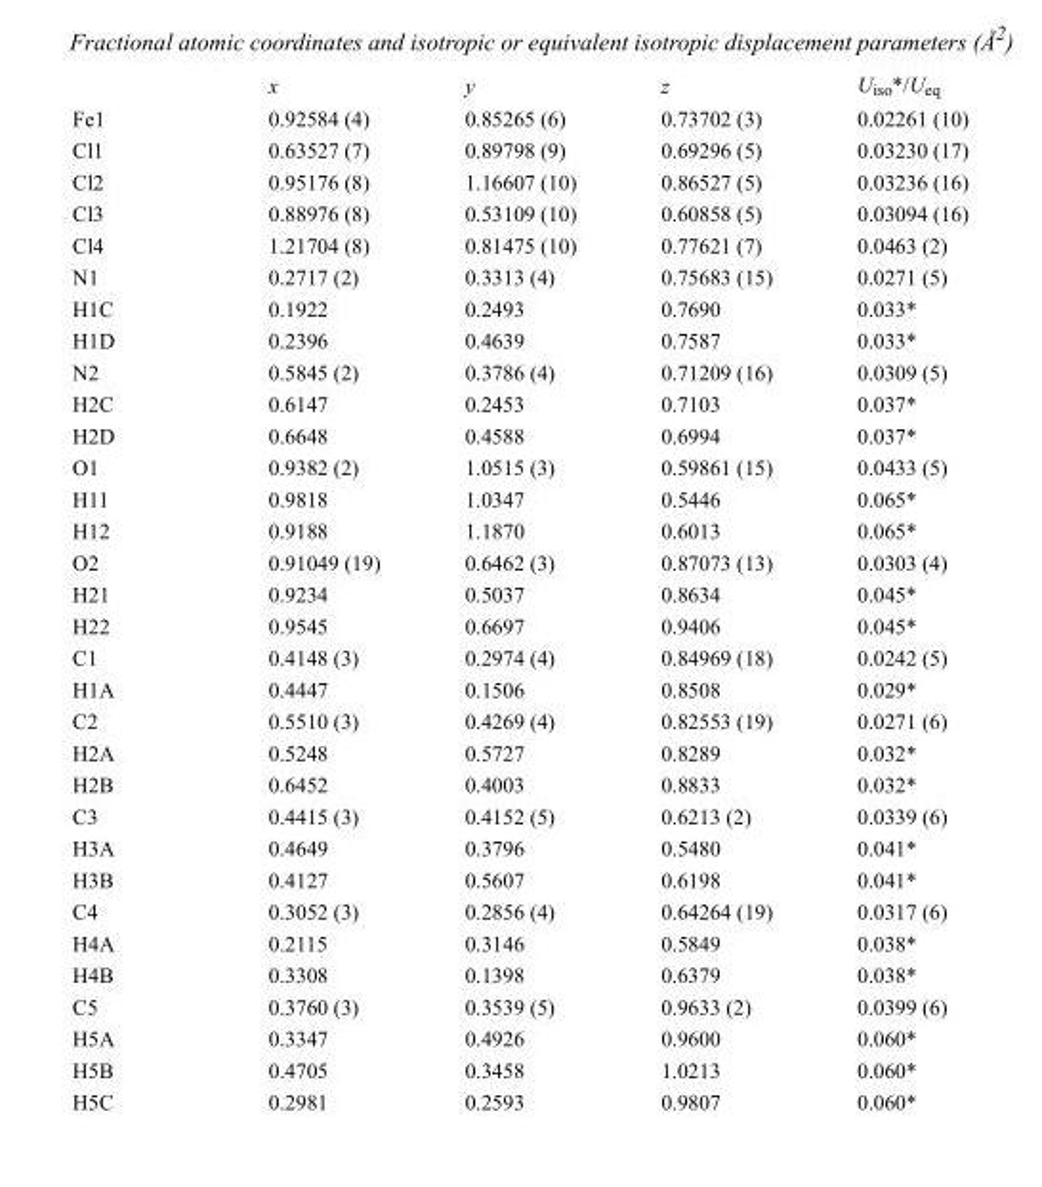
<table><thead><tr><td></td><td>x</td><td>y</td><td>z</td><td>U<sub>iso</sub>*/U<sub>eq</sub></td></tr></thead><tbody><tr><td>Fe1</td><td>0.92584 (4)</td><td>0.85265 (6)</td><td>0.73702 (3)</td><td>0.02261 (10)</td></tr><tr><td>Cl1</td><td>0.63527 (7)</td><td>0.89798 (9)</td><td>0.69296 (5)</td><td>0.03230 (17)</td></tr><tr><td>Cl2</td><td>0.95176 (8)</td><td>1.16607 (10)</td><td>0.86527 (5)</td><td>0.03236 (16)</td></tr><tr><td>Cl3</td><td>0.88976 (8)</td><td>0.53109 (10)</td><td>0.60858 (5)</td><td>0.03094 (16)</td></tr><tr><td>Cl4</td><td>1.21704 (8)</td><td>0.81475 (10)</td><td>0.77621 (7)</td><td>0.0463 (2)</td></tr><tr><td>N1</td><td>0.2717 (2)</td><td>0.3313 (4)</td><td>0.75683 (15)</td><td>0.0271 (5)</td></tr><tr><td>H1C</td><td>0.1922</td><td>0.2493</td><td>0.7690</td><td>0.033*</td></tr><tr><td>H1D</td><td>0.2396</td><td>0.4639</td><td>0.7587</td><td>0.033*</td></tr><tr><td>N2</td><td>0.5845 (2)</td><td>0.3786 (4)</td><td>0.71209 (16)</td><td>0.0309 (5)</td></tr><tr><td>H2C</td><td>0.6147</td><td>0.2453</td><td>0.7103</td><td>0.037*</td></tr><tr><td>H2D</td><td>0.6648</td><td>0.4588</td><td>0.6994</td><td>0.037*</td></tr><tr><td>O1</td><td>0.9382 (2)</td><td>1.0515 (3)</td><td>0.59861 (15)</td><td>0.0433 (5)</td></tr><tr><td>H11</td><td>0.9818</td><td>1.0347</td><td>0.5446</td><td>0.065*</td></tr><tr><td>H12</td><td>0.9188</td><td>1.1870</td><td>0.6013</td><td>0.065*</td></tr><tr><td>O2</td><td>0.91049 (19)</td><td>0.6462 (3)</td><td>0.87073 (13)</td><td>0.0303 (4)</td></tr><tr><td>H21</td><td>0.9234</td><td>0.5037</td><td>0.8634</td><td>0.045*</td></tr><tr><td>H22</td><td>0.9545</td><td>0.6697</td><td>0.9406</td><td>0.045*</td></tr><tr><td>C1</td><td>0.4148 (3)</td><td>0.2974 (4)</td><td>0.84969 (18)</td><td>0.0242 (5)</td></tr><tr><td>H1A</td><td>0.4447</td><td>0.1506</td><td>0.8508</td><td>0.029*</td></tr><tr><td>C2</td><td>0.5510 (3)</td><td>0.4269 (4)</td><td>0.82553 (19)</td><td>0.0271 (6)</td></tr><tr><td>H2A</td><td>0.5248</td><td>0.5727</td><td>0.8289</td><td>0.032*</td></tr><tr><td>H2B</td><td>0.6452</td><td>0.4003</td><td>0.8833</td><td>0.032*</td></tr><tr><td>C3</td><td>0.4415 (3)</td><td>0.4152 (5)</td><td>0.6213 (2)</td><td>0.0339 (6)</td></tr><tr><td>H3A</td><td>0.4649</td><td>0.3796</td><td>0.5480</td><td>0.041*</td></tr><tr><td>H3B</td><td>0.4127</td><td>0.5607</td><td>0.6198</td><td>0.041*</td></tr><tr><td>C4</td><td>0.3052 (3)</td><td>0.2856 (4)</td><td>0.64264 (19)</td><td>0.0317 (6)</td></tr><tr><td>H4A</td><td>0.2115</td><td>0.3146</td><td>0.5849</td><td>0.038*</td></tr><tr><td>H4B</td><td>0.3308</td><td>0.1398</td><td>0.6379</td><td>0.038*</td></tr><tr><td>C5</td><td>0.3760 (3)</td><td>0.3539 (5)</td><td>0.9633 (2)</td><td>0.0399 (6)</td></tr><tr><td>H5A</td><td>0.3347</td><td>0.4926</td><td>0.9600</td><td>0.060*</td></tr><tr><td>H5B</td><td>0.4705</td><td>0.3458</td><td>1.0213</td><td>0.060*</td></tr><tr><td>H5C</td><td>0.2981</td><td>0.2593</td><td>0.9807</td><td>0.060*</td></tr></tbody></table>